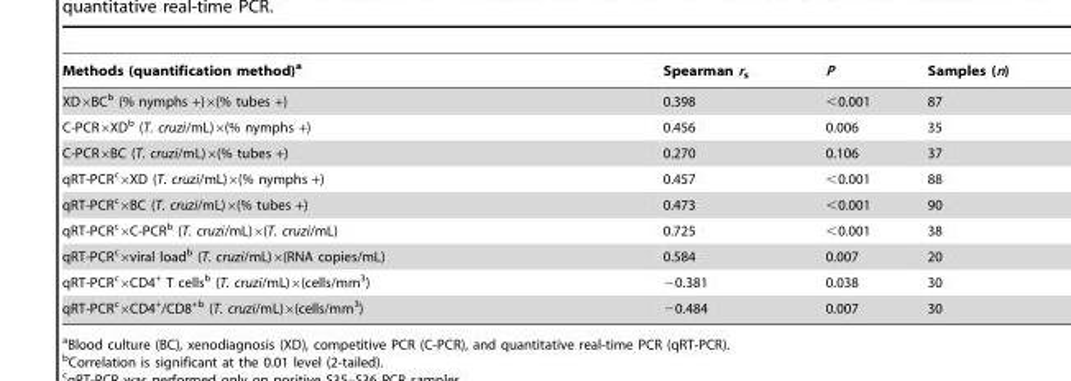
<table><thead><tr><td>Methods (quantification method)<sup>a</sup></td><td>Spearman r<sub>s</sub></td><td>P</td><td>Samples (n)</td></tr></thead><tbody><tr><td>XD×BC<sup>b</sup> (% nymphs +)×(% tubes +)</td><td>0.398</td><td>&lt;0.001</td><td>87</td></tr><tr><td>C-PCR×XD<sup>b</sup> (T. cruzi/mL)×(% nymphs +)</td><td>0.456</td><td>0.006</td><td>35</td></tr><tr><td>C-PCR×BC (T. cruzi/mL)×(% tubes +)</td><td>0.270</td><td>0.106</td><td>37</td></tr><tr><td>qRT-PCR<sup>c</sup>×XD (T. cruzi/mL)×(% nymphs +)</td><td>0.457</td><td>&lt;0.001</td><td>88</td></tr><tr><td>qRT-PCR<sup>c</sup>×BC (T. cruzi/mL)×(% tubes +)</td><td>0.473</td><td>&lt;0.001</td><td>90</td></tr><tr><td>qRT-PCR<sup>c</sup>×C-PCR<sup>b</sup> (T. cruzi/mL)×(T. cruzi/mL)</td><td>0.725</td><td>&lt;0.001</td><td>38</td></tr><tr><td>qRT-PCR<sup>c</sup>×viral load<sup>b</sup> (T. cruzi/mL)×(RNA copies/mL)</td><td>0.584</td><td>0.007</td><td>20</td></tr><tr><td>qRT-PCR<sup>c</sup>×CD4<sup>+</sup> T cells<sup>b</sup> (T. cruzi/mL)×(cells/mm<sup>3</sup>)</td><td>−0.381</td><td>0.038</td><td>30</td></tr><tr><td>qRT-PCR<sup>c</sup>×CD4<sup>+</sup>/CD8<sup>+</sup>b (T. cruzi/mL)×(cells/mm<sup>3</sup>)</td><td>−0.484</td><td>0.007</td><td>30</td></tr></tbody></table>